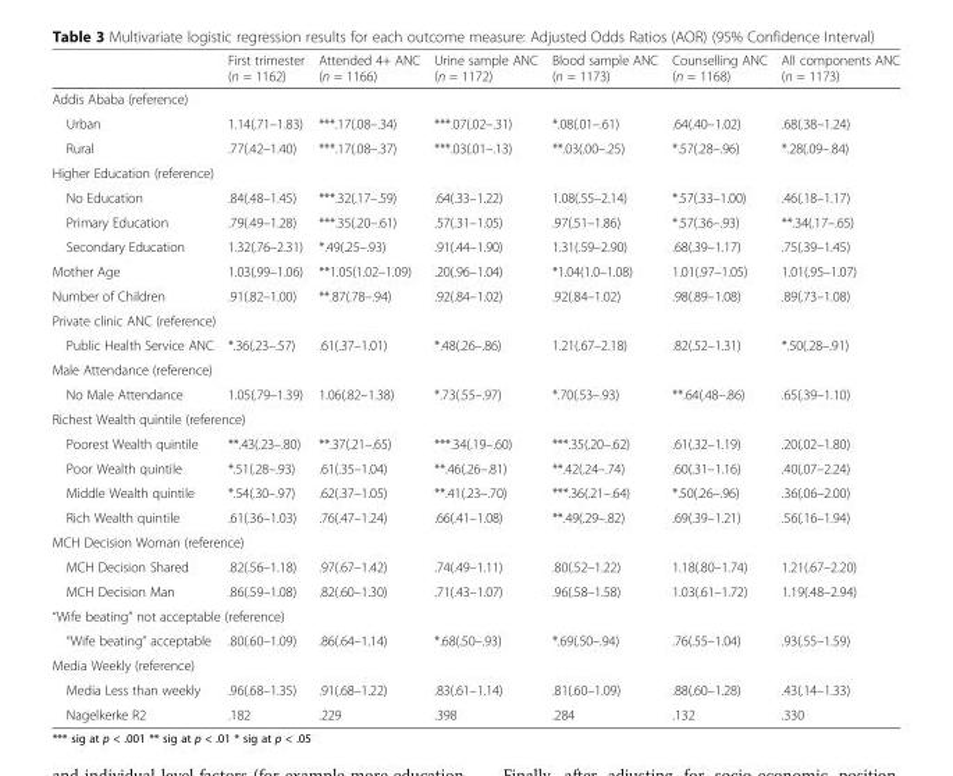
<table><thead><tr><td></td><td>First trimester (n = 1162)</td><td>Attended 4+ ANC (n = 1166)</td><td>Urine sample ANC (n = 1172)</td><td>Blood sample ANC (n = 1173)</td><td>Counselling ANC (n = 1168)</td><td>All components ANC (n = 1173)</td></tr></thead><tbody><tr><td colspan="7">Addis Ababa (reference)</td></tr><tr><td>Urban</td><td>1.14(.71–1.83)</td><td>***.17(.08–.34)</td><td>***.07(.02–.31)</td><td>*.08(.01–.61)</td><td>.64(.40–1.02)</td><td>.68(.38–1.24)</td></tr><tr><td>Rural</td><td>.77(.42–1.40)</td><td>***.17(.08–.37)</td><td>***.03(.01–.13)</td><td>**.03(.00–.25)</td><td>*.57(.28–.96)</td><td>*.28(.09–.84)</td></tr><tr><td colspan="7">Higher Education (reference)</td></tr><tr><td>No Education</td><td>.84(.48–1.45)</td><td>***.32(.17–.59)</td><td>.64(.33–1.22)</td><td>1.08(.55–2.14)</td><td>*.57(.33–1.00)</td><td>.46(.18–1.17)</td></tr><tr><td>Primary Education</td><td>.79(.49–1.28)</td><td>***.35(.20–.61)</td><td>.57(.31–1.05)</td><td>.97(.51–1.86)</td><td>*.57(.36–.93)</td><td>**.34(.17–.65)</td></tr><tr><td>Secondary Education</td><td>1.32(.76–2.31)</td><td>*.49(.25–.93)</td><td>.91(.44–1.90)</td><td>1.31(.59–2.90)</td><td>.68(.39–1.17)</td><td>.75(.39–1.45)</td></tr><tr><td>Mother Age</td><td>1.03(.99–1.06)</td><td>**1.05(1.02–1.09)</td><td>.20(.96–1.04)</td><td>*1.04(1.0–1.08)</td><td>1.01(.97–1.05)</td><td>1.01(.95–1.07)</td></tr><tr><td>Number of Children</td><td>.91(.82–1.00)</td><td>**.87(.78–.94)</td><td>.92(.84–1.02)</td><td>.92(.84–1.02)</td><td>.98(.89–1.08)</td><td>.89(.73–1.08)</td></tr><tr><td colspan="7">Private clinic ANC (reference)</td></tr><tr><td>Public Health Service ANC</td><td>*.36(.23–.57)</td><td>.61(.37–1.01)</td><td>*.48(.26–.86)</td><td>1.21(.67–2.18)</td><td>.82(.52–1.31)</td><td>*.50(.28–.91)</td></tr><tr><td colspan="7">Male Attendance (reference)</td></tr><tr><td>No Male Attendance</td><td>1.05(.79–1.39)</td><td>1.06(.82–1.38)</td><td>*.73(.55–.97)</td><td>*.70(.53–.93)</td><td>**.64(.48–.86)</td><td>.65(.39–1.10)</td></tr><tr><td colspan="7">Richest Wealth quintile (reference)</td></tr><tr><td>Poorest Wealth quintile</td><td>**.43(.23–.80)</td><td>**.37(.21–.65)</td><td>***.34(.19–.60)</td><td>***.35(.20–.62)</td><td>.61(.32–1.19)</td><td>.20(.02–1.80)</td></tr><tr><td>Poor Wealth quintile</td><td>*.51(.28–.93)</td><td>.61(.35–1.04)</td><td>**.46(.26–.81)</td><td>**.42(.24–.74)</td><td>.60(.31–1.16)</td><td>.40(.07–2.24)</td></tr><tr><td>Middle Wealth quintile</td><td>*.54(.30–.97)</td><td>.62(.37–1.05)</td><td>**.41(.23–.70)</td><td>***.36(.21–.64)</td><td>*.50(.26–.96)</td><td>.36(.06–2.00)</td></tr><tr><td>Rich Wealth quintile</td><td>.61(.36–1.03)</td><td>.76(.47–1.24)</td><td>.66(.41–1.08)</td><td>**.49(.29–.82)</td><td>.69(.39–1.21)</td><td>.56(.16–1.94)</td></tr><tr><td colspan="7">MCH Decision Woman (reference)</td></tr><tr><td>MCH Decision Shared</td><td>.82(.56–1.18)</td><td>.97(.67–1.42)</td><td>.74(.49–1.11)</td><td>.80(.52–1.22)</td><td>1.18(.80–1.74)</td><td>1.21(.67–2.20)</td></tr><tr><td>MCH Decision Man</td><td>.86(.59–1.08)</td><td>.82(.60–1.30)</td><td>.71(.43–1.07)</td><td>.96(.58–1.58)</td><td>1.03(.61–1.72)</td><td>1.19(.48–2.94)</td></tr><tr><td colspan="7">“Wife beating” not acceptable (reference)</td></tr><tr><td>“Wife beating” acceptable</td><td>.80(.60–1.09)</td><td>.86(.64–1.14)</td><td>*.68(.50–.93)</td><td>*.69(.50–.94)</td><td>.76(.55–1.04)</td><td>.93(.55–1.59)</td></tr><tr><td colspan="7">Media Weekly (reference)</td></tr><tr><td>Media Less than weekly</td><td>.96(.68–1.35)</td><td>.91(.68–1.22)</td><td>.83(.61–1.14)</td><td>.81(.60–1.09)</td><td>.88(.60–1.28)</td><td>.43(.14–1.33)</td></tr><tr><td>Nagelkerke R2</td><td>.182</td><td>.229</td><td>.398</td><td>.284</td><td>.132</td><td>.330</td></tr></tbody></table>